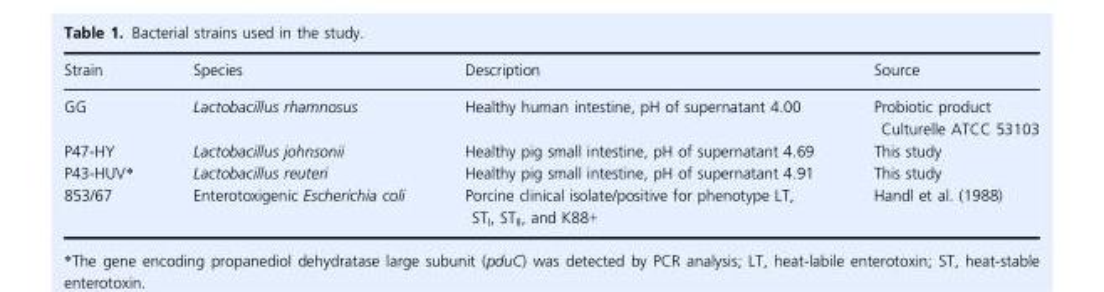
<table><thead><tr><td>Strain</td><td>Species</td><td>Description</td><td>Source</td></tr></thead><tbody><tr><td>GG</td><td>Lactobacillus rhamnosus</td><td>Healthy human intestine, pH of supernatant 4.00</td><td>Probiotic product Culturelle ATCC 53103</td></tr><tr><td>P47-HY</td><td>Lactobacillus johnsonii</td><td>Healthy pig small intestine, pH of supernatant 4.69</td><td>This study</td></tr><tr><td>P43-HUV*</td><td>Lactobacillus reuteri</td><td>Healthy pig small intestine, pH of supernatant 4.91</td><td>This study</td></tr><tr><td>853/67</td><td>Enterotoxigenic Escherichia coli</td><td>Porcine clinical isolate/positive for phenotype LT, ST<sub>I</sub>, ST<sub>II</sub>, and K88+</td><td>Handl et al. (1988)</td></tr></tbody></table>